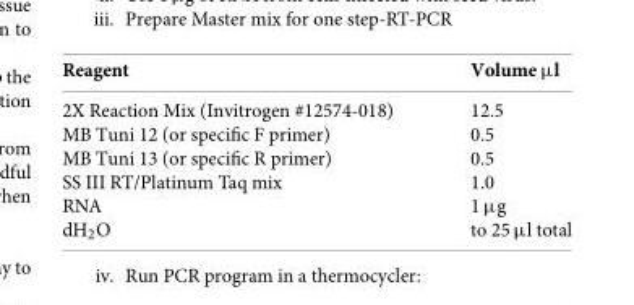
<table><thead><tr><td>Reagent</td><td>Volume µl</td></tr></thead><tbody><tr><td>2X Reaction Mix (Invitrogen #12574-018)</td><td>12.5</td></tr><tr><td>MB Tuni 12 (or specific F primer)</td><td>0.5</td></tr><tr><td>MB Tuni 13 (or specific R primer)</td><td>0.5</td></tr><tr><td>SS III RT/Platinum Taq mix</td><td>1.0</td></tr><tr><td>RNA</td><td>1 µg</td></tr><tr><td>dH<sub>2</sub>O</td><td>to 25 µl total</td></tr></tbody></table>